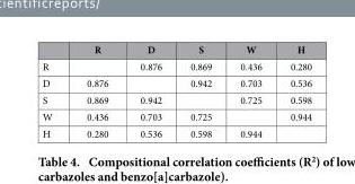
<table><thead><tr><td></td><td>R</td><td>D</td><td>S</td><td>W</td><td>H</td></tr></thead><tbody><tr><td>R</td><td></td><td>0.876</td><td>0.869</td><td>0.436</td><td>0.280</td></tr><tr><td>D</td><td>0.876</td><td></td><td>0.942</td><td>0.703</td><td>0.536</td></tr><tr><td>S</td><td>0.869</td><td>0.942</td><td></td><td>0.725</td><td>0.598</td></tr><tr><td>W</td><td>0.436</td><td>0.703</td><td>0.725</td><td></td><td>0.944</td></tr><tr><td>H</td><td>0.280</td><td>0.536</td><td>0.598</td><td>0.944</td><td></td></tr></tbody></table>